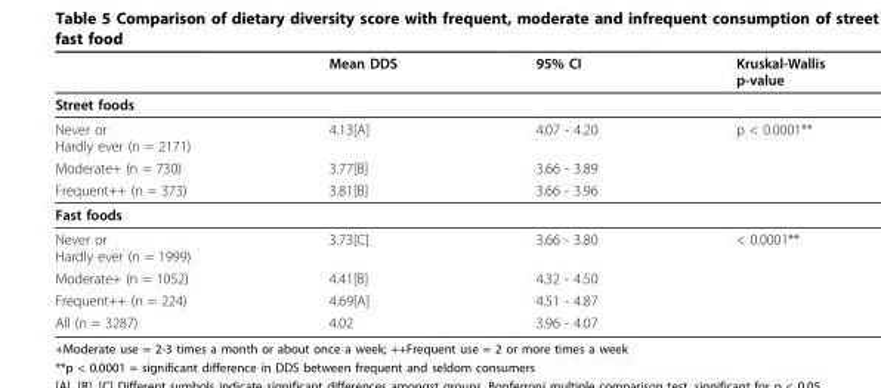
<table><thead><tr><td></td><td>Mean DDS</td><td>95% CI</td><td>Kruskal-Wallis p-value</td></tr></thead><tbody><tr><td colspan="4">Street foods</td></tr><tr><td>Never or Hardly ever (n = 2171)</td><td>4.13[A]</td><td>4.07 - 4.20</td><td>p &lt; 0.0001**</td></tr><tr><td>Moderate+ (n = 730)</td><td>3.77[B]</td><td>3.66 - 3.89</td><td></td></tr><tr><td>Frequent++ (n = 373)</td><td>3.81[B]</td><td>3.66 - 3.96</td><td></td></tr><tr><td colspan="4">Fast foods</td></tr><tr><td>Never or Hardly ever (n = 1999)</td><td>3.73[C]</td><td>3.66 - 3.80</td><td>&lt; 0.0001**</td></tr><tr><td>Moderate+ (n = 1052)</td><td>4.41[B]</td><td>4.32 - 4.50</td><td></td></tr><tr><td>Frequent++ (n = 224)</td><td>4.69[A]</td><td>4.51 - 4.87</td><td></td></tr><tr><td>All (n = 3287)</td><td>4.02</td><td>3.96 - 4.07</td><td></td></tr></tbody></table>